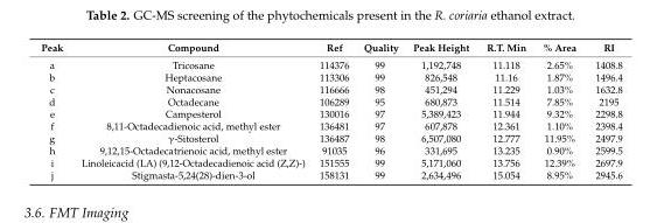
<table><thead><tr><td>Peak</td><td>Compound</td><td>Ref</td><td>Quality</td><td>Peak Height</td><td>R.T. Min</td><td>% Area</td><td>RI</td></tr></thead><tbody><tr><td>a</td><td>Tricosane</td><td>114376</td><td>99</td><td>1,192,748</td><td>11.118</td><td>2.65%</td><td>1408.8</td></tr><tr><td>b</td><td>Heptacosane</td><td>113306</td><td>99</td><td>826,548</td><td>11.16</td><td>1.87%</td><td>1496.4</td></tr><tr><td>c</td><td>Nonacosane</td><td>116666</td><td>98</td><td>451,294</td><td>11.229</td><td>1.03%</td><td>1632.8</td></tr><tr><td>d</td><td>Octadecane</td><td>106289</td><td>95</td><td>680,873</td><td>11.514</td><td>7.85%</td><td>2195</td></tr><tr><td>e</td><td>Campesterol</td><td>130016</td><td>97</td><td>5,389,423</td><td>11.944</td><td>9.32%</td><td>2298.8</td></tr><tr><td>f</td><td>8,11-Octadecadienoic acid, methyl ester</td><td>136481</td><td>97</td><td>607,878</td><td>12.361</td><td>1.10%</td><td>2398.4</td></tr><tr><td>g</td><td>γ-Sitosterol</td><td>136487</td><td>98</td><td>6,507,080</td><td>12.777</td><td>11.95%</td><td>2497.9</td></tr><tr><td>h</td><td>9,12,15-Octadecatrienoic acid, methyl ester</td><td>91035</td><td>96</td><td>331,695</td><td>13.235</td><td>0.90%</td><td>2599.5</td></tr><tr><td>i</td><td>Linoleicacid (LA) (9,12-Octadecadienoic acid (Z,Z)-)</td><td>151555</td><td>99</td><td>5,171,060</td><td>13.756</td><td>12.39%</td><td>2697.9</td></tr><tr><td>j</td><td>Stigmasta-5,24(28)-dien-3-ol</td><td>158131</td><td>99</td><td>2,634,496</td><td>15.054</td><td>8.95%</td><td>2945.6</td></tr></tbody></table>